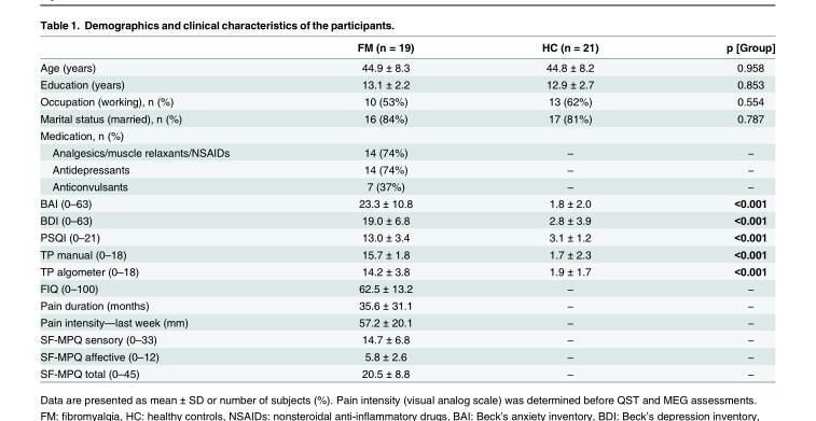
<table><thead><tr><td></td><td>FM (n = 19)</td><td>HC (n = 21)</td><td>p [Group]</td></tr></thead><tbody><tr><td>Age (years)</td><td>44.9 ± 8.3</td><td>44.8 ± 8.2</td><td>0.958</td></tr><tr><td>Education (years)</td><td>13.1 ± 2.2</td><td>12.9 ± 2.7</td><td>0.853</td></tr><tr><td>Occupation (working), n (%)</td><td>10 (53%)</td><td>13 (62%)</td><td>0.554</td></tr><tr><td>Marital status (married), n (%)</td><td>16 (84%)</td><td>17 (81%)</td><td>0.787</td></tr><tr><td colspan="4">Medication, n (%)</td></tr><tr><td>Analgesics/muscle relaxants/NSAIDs</td><td>14 (74%)</td><td>−</td><td>−</td></tr><tr><td>Antidepressants</td><td>14 (74%)</td><td>−</td><td>−</td></tr><tr><td>Anticonvulsants</td><td>7 (37%)</td><td>−</td><td>−</td></tr><tr><td>BAI (0–63)</td><td>23.3 ± 10.8</td><td>1.8 ± 2.0</td><td>&lt;0.001</td></tr><tr><td>BDI (0–63)</td><td>19.0 ± 6.8</td><td>2.8 ± 3.9</td><td>&lt;0.001</td></tr><tr><td>PSQI (0–21)</td><td>13.0 ± 3.4</td><td>3.1 ± 1.2</td><td>&lt;0.001</td></tr><tr><td>TP manual (0–18)</td><td>15.7 ± 1.8</td><td>1.7 ± 2.3</td><td>&lt;0.001</td></tr><tr><td>TP algometer (0–18)</td><td>14.2 ± 3.8</td><td>1.9 ± 1.7</td><td>&lt;0.001</td></tr><tr><td>FIQ (0–100)</td><td>62.5 ± 13.2</td><td>−</td><td>−</td></tr><tr><td>Pain duration (months)</td><td>35.6 ± 31.1</td><td>−</td><td>−</td></tr><tr><td>Pain intensity—last week (mm)</td><td>57.2 ± 20.1</td><td>−</td><td>−</td></tr><tr><td>SF-MPQ sensory (0–33)</td><td>14.7 ± 6.8</td><td>−</td><td>−</td></tr><tr><td>SF-MPQ affective (0–12)</td><td>5.8 ± 2.6</td><td>−</td><td>−</td></tr><tr><td>SF-MPQ total (0–45)</td><td>20.5 ± 8.8</td><td>−</td><td>−</td></tr></tbody></table>